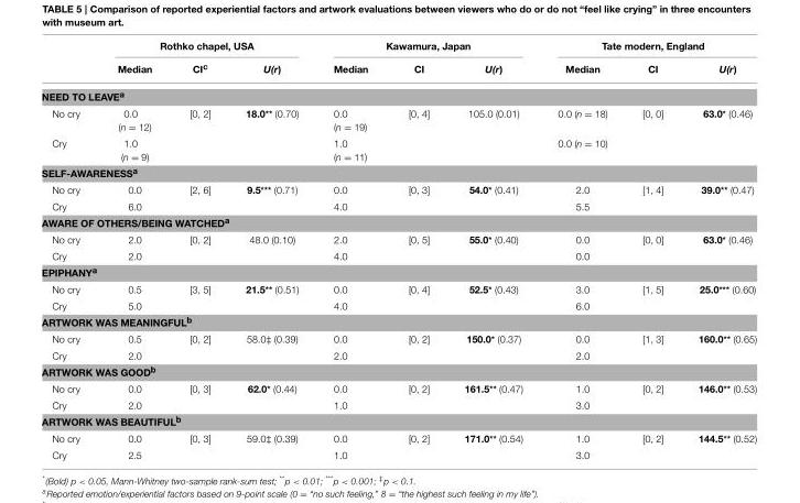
<table><thead><tr><td rowspan="2"></td><td colspan="3">Rothko chapel, USA</td><td colspan="3">Kawamura, Japan</td><td colspan="3">Tate modern, England</td></tr><tr><td>Median</td><td>CI<sup>c</sup></td><td>U(r)</td><td>Median</td><td>CI</td><td>U(r)</td><td>Median</td><td>CI</td><td>U(r)</td></tr></thead><tbody><tr><td colspan="10">NEED TO LEAVE<sup>a</sup></td></tr><tr><td>No cry</td><td>0.0 (n = 12)</td><td>[0, 2]</td><td>18.0** (0.70)</td><td>0.0 (n = 19)</td><td>[0, 4]</td><td>105.0 (0.01)</td><td>0.0 (n = 18)</td><td>[0, 0]</td><td>63.0* (0.46)</td></tr><tr><td>Cry</td><td>1.0 (n = 9)</td><td></td><td></td><td>1.0 (n = 11)</td><td></td><td></td><td>0.0 (n = 10)</td><td></td><td></td></tr><tr><td colspan="10">SELF-AWARENESS<sup>a</sup></td></tr><tr><td>No cry</td><td>0.0</td><td>[2, 6]</td><td>9.5*** (0.71)</td><td>0.0</td><td>[0, 3]</td><td>54.0* (0.41)</td><td>2.0</td><td>[1, 4]</td><td>39.0** (0.47)</td></tr><tr><td>Cry</td><td>6.0</td><td></td><td></td><td>4.0</td><td></td><td></td><td>5.5</td><td></td><td></td></tr><tr><td colspan="10">AWARE OF OTHERS/BEING WATCHED<sup>a</sup></td></tr><tr><td>No cry</td><td>2.0</td><td>[0, 2]</td><td>48.0 (0.10)</td><td>2.0</td><td>[0, 5]</td><td>55.0* (0.40)</td><td>0.0</td><td>[0, 0]</td><td>63.0* (0.46)</td></tr><tr><td>Cry</td><td>2.0</td><td></td><td></td><td>4.0</td><td></td><td></td><td>0.0</td><td></td><td></td></tr><tr><td colspan="10">EPIPHANY<sup>a</sup></td></tr><tr><td>No cry</td><td>0.5</td><td>[3, 5]</td><td>21.5** (0.51)</td><td>0.0</td><td>[0, 4]</td><td>52.5* (0.43)</td><td>3.0</td><td>[1, 5]</td><td>25.0*** (0.60)</td></tr><tr><td>Cry</td><td>5.0</td><td></td><td></td><td>4.0</td><td></td><td></td><td>6.0</td><td></td><td></td></tr><tr><td colspan="10">ARTWORK WAS MEANINGFUL<sup>b</sup></td></tr><tr><td>No cry</td><td>0.5</td><td>[0, 2]</td><td>58.0‡ (0.39)</td><td>0.0</td><td>[0, 2]</td><td>150.0* (0.37)</td><td>0.0</td><td>[1, 3]</td><td>160.0** (0.65)</td></tr><tr><td>Cry</td><td>2.0</td><td></td><td></td><td>2.0</td><td></td><td></td><td>2.0</td><td></td><td></td></tr><tr><td colspan="10">ARTWORK WAS GOOD<sup>b</sup></td></tr><tr><td>No cry</td><td>0.0</td><td>[0, 3]</td><td>62.0* (0.44)</td><td>0.0</td><td>[0, 2]</td><td>161.5** (0.47)</td><td>1.0</td><td>[0, 2]</td><td>146.0** (0.53)</td></tr><tr><td>Cry</td><td>2.0</td><td></td><td></td><td>1.0</td><td></td><td></td><td>3.0</td><td></td><td></td></tr><tr><td colspan="10">ARTWORK WAS BEAUTIFUL<sup>b</sup></td></tr><tr><td>No cry</td><td>0.0</td><td>[0, 3]</td><td>59.0<sup>‡</sup> (0.39)</td><td>0.0</td><td>[0, 2]</td><td>171.0** (0.54)</td><td>1.0</td><td>[0, 2]</td><td>144.5** (0.52)</td></tr><tr><td>Cry</td><td>2.5</td><td></td><td></td><td>1.0</td><td></td><td></td><td>3.0</td><td></td><td></td></tr></tbody></table>